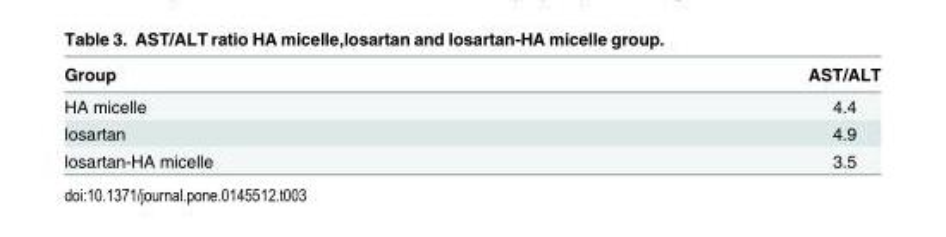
<table><thead><tr><td>Group</td><td>AST/ALT</td></tr></thead><tbody><tr><td>HA micelle</td><td>4.4</td></tr><tr><td>losartan</td><td>4.9</td></tr><tr><td>losartan-HA micelle</td><td>3.5</td></tr></tbody></table>